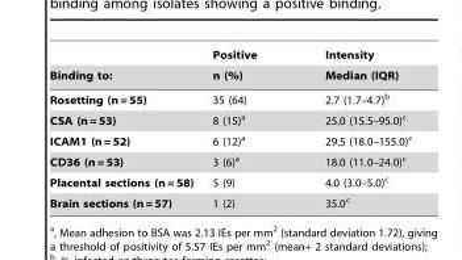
<table><thead><tr><td rowspan="2">Binding to:</td><td rowspan="2">Positive n (%)</td><td rowspan="2">Intensity Median (IQR)</td></tr><tr></tr></thead><tbody><tr><td>Rosetting (n = 55)</td><td>35 (64)</td><td>2.7 (1.7–4.7)<sup>b</sup></td></tr><tr><td>CSA (n = 53)</td><td>8 (15)<sup>a</sup></td><td>25.0 (15.5–95.0)<sup>c</sup></td></tr><tr><td>ICAM1 (n = 52)</td><td>6 (12)<sup>a</sup></td><td>29.5 (18.0–155.0)<sup>c</sup></td></tr><tr><td>CD36 (n = 53)</td><td>3 (6)<sup>a</sup></td><td>18.0 (11.0–24.0)<sup>c</sup></td></tr><tr><td>Placental sections (n = 58)</td><td>5 (9)</td><td>4.0 (3.0–5.0)<sup>c</sup></td></tr><tr><td>Brain sections (n = 57)</td><td>1 (2)</td><td>35.0<sup>c</sup></td></tr></tbody></table>